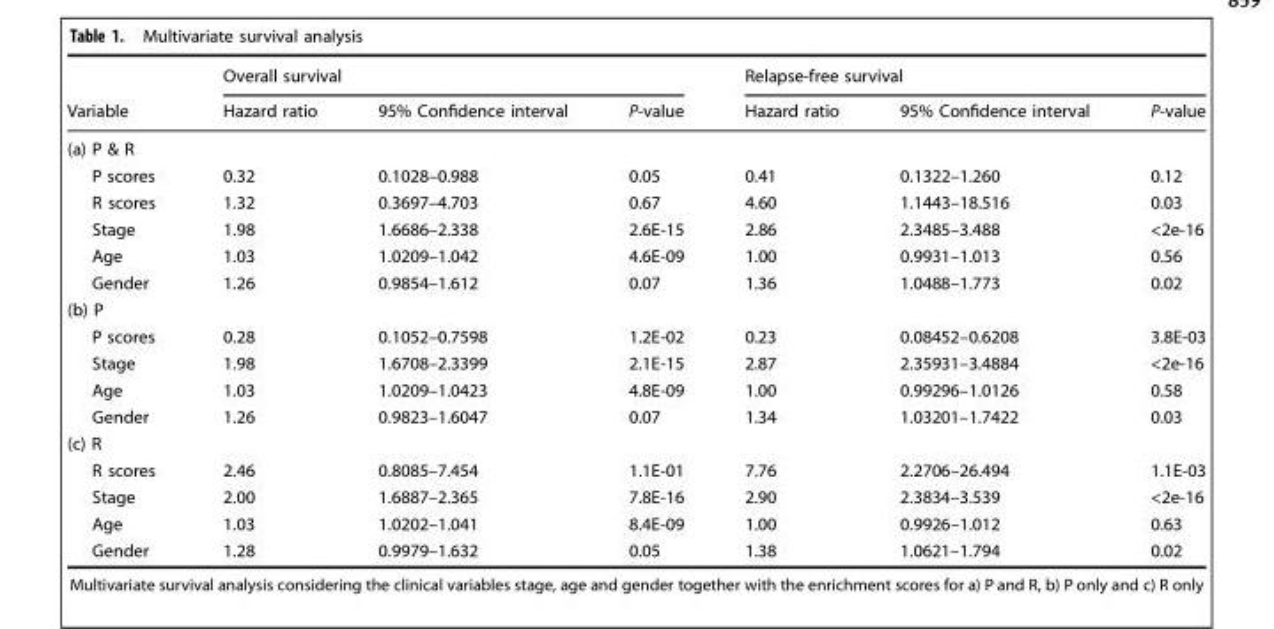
<table><thead><tr><td rowspan="2">Variable</td><td colspan="3">Overall survival</td><td colspan="3">Relapse-free survival</td></tr><tr><td>Hazard ratio</td><td>95% Confidence interval</td><td>P-value</td><td>Hazard ratio</td><td>95% Confidence interval</td><td>P-value</td></tr></thead><tbody><tr><td colspan="7">(a) P &amp; R</td></tr><tr><td>P scores</td><td>0.32</td><td>0.1028–0.988</td><td>0.05</td><td>0.41</td><td>0.1322–1.260</td><td>0.12</td></tr><tr><td>R scores</td><td>1.32</td><td>0.3697–4.703</td><td>0.67</td><td>4.60</td><td>1.1443–18.516</td><td>0.03</td></tr><tr><td>Stage</td><td>1.98</td><td>1.6686–2.338</td><td>2.6E-15</td><td>2.86</td><td>2.3485–3.488</td><td>&lt;2e-16</td></tr><tr><td>Age</td><td>1.03</td><td>1.0209–1.042</td><td>4.6E-09</td><td>1.00</td><td>0.9931–1.013</td><td>0.56</td></tr><tr><td>Gender</td><td>1.26</td><td>0.9854–1.612</td><td>0.07</td><td>1.36</td><td>1.0488–1.773</td><td>0.02</td></tr><tr><td colspan="7">(b) P</td></tr><tr><td>P scores</td><td>0.28</td><td>0.1052–0.7598</td><td>1.2E-02</td><td>0.23</td><td>0.08452–0.6208</td><td>3.8E-03</td></tr><tr><td>Stage</td><td>1.98</td><td>1.6708–2.3399</td><td>2.1E-15</td><td>2.87</td><td>2.35931–3.4884</td><td>&lt;2e-16</td></tr><tr><td>Age</td><td>1.03</td><td>1.0209–1.0423</td><td>4.8E-09</td><td>1.00</td><td>0.99296–1.0126</td><td>0.58</td></tr><tr><td>Gender</td><td>1.26</td><td>0.9823–1.6047</td><td>0.07</td><td>1.34</td><td>1.03201–1.7422</td><td>0.03</td></tr><tr><td colspan="7">(c) R</td></tr><tr><td>R scores</td><td>2.46</td><td>0.8085–7.454</td><td>1.1E-01</td><td>7.76</td><td>2.2706–26.494</td><td>1.1E-03</td></tr><tr><td>Stage</td><td>2.00</td><td>1.6887–2.365</td><td>7.8E-16</td><td>2.90</td><td>2.3834–3.539</td><td>&lt;2e-16</td></tr><tr><td>Age</td><td>1.03</td><td>1.0202–1.041</td><td>8.4E-09</td><td>1.00</td><td>0.9926–1.012</td><td>0.63</td></tr><tr><td>Gender</td><td>1.28</td><td>0.9979–1.632</td><td>0.05</td><td>1.38</td><td>1.0621–1.794</td><td>0.02</td></tr></tbody></table>